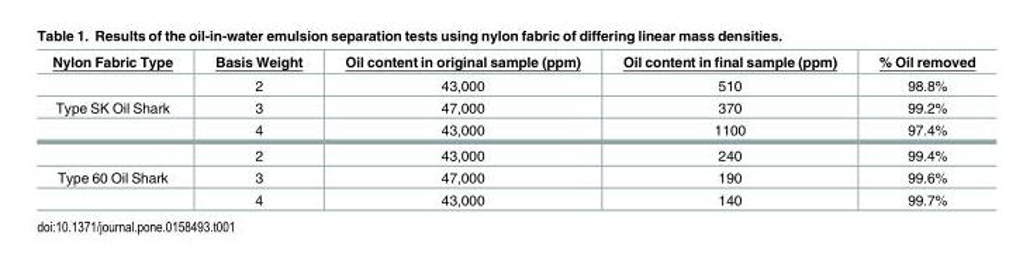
<table><thead><tr><td>Nylon Fabric Type</td><td>Basis Weight</td><td>Oil content in original sample (ppm)</td><td>Oil content in final sample (ppm)</td><td>% Oil removed</td></tr></thead><tbody><tr><td></td><td>2</td><td>43,000</td><td>510</td><td>98.8%</td></tr><tr><td rowspan="3">Type SK Oil Shark</td><td>3</td><td>47,000</td><td>370</td><td>99.2%</td></tr><tr><td>4</td><td>43,000</td><td>1100</td><td>97.4%</td></tr><tr><td>2</td><td>43,000</td><td>240</td><td>99.4%</td></tr><tr><td rowspan="2">Type 60 Oil Shark</td><td>3</td><td>47,000</td><td>190</td><td>99.6%</td></tr><tr><td>4</td><td>43,000</td><td>140</td><td>99.7%</td></tr></tbody></table>